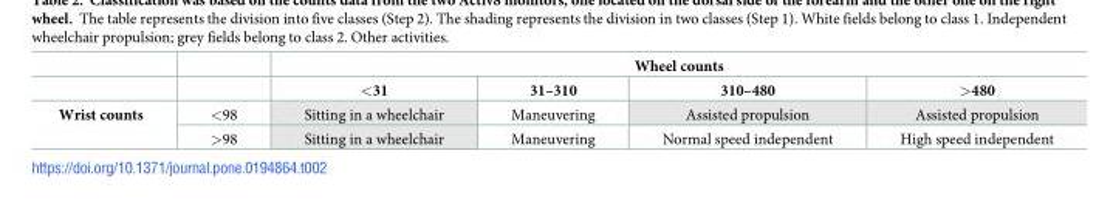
<table><thead><tr><td rowspan="2"></td><td rowspan="2"></td><td colspan="4">Wheel counts</td></tr><tr><td>&lt;31</td><td>31–310</td><td>310–480</td><td>&gt;480</td></tr></thead><tbody><tr><td rowspan="2">Wrist counts</td><td>&lt;98</td><td>Sitting in a wheelchair</td><td>Maneuvering</td><td>Assisted propulsion</td><td>Assisted propulsion</td></tr><tr><td>&gt;98</td><td>Sitting in a wheelchair</td><td>Maneuvering</td><td>Normal speed independent</td><td>High speed independent</td></tr></tbody></table>